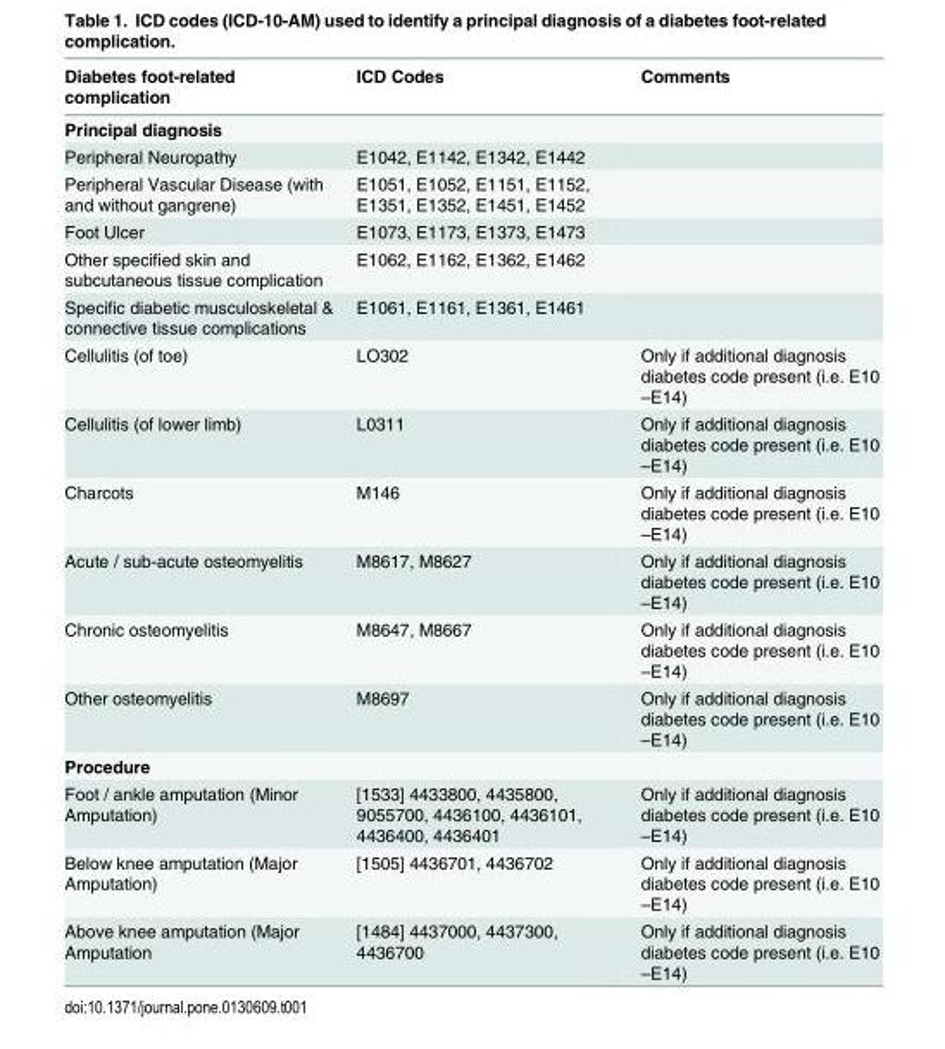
<table><thead><tr><td>Diabetes foot-related complication</td><td>ICD Codes</td><td>Comments</td></tr></thead><tbody><tr><td colspan="3">Principal diagnosis</td></tr><tr><td>Peripheral Neuropathy</td><td>E1042, E1142, E1342, E1442</td><td></td></tr><tr><td>Peripheral Vascular Disease (with and without gangrene)</td><td>E1051, E1052, E1151, E1152, E1351, E1352, E1451, E1452</td><td></td></tr><tr><td>Foot Ulcer</td><td>E1073, E1173, E1373, E1473</td><td></td></tr><tr><td>Other specified skin and subcutaneous tissue complication</td><td>E1062, E1162, E1362, E1462</td><td></td></tr><tr><td>Specific diabetic musculoskeletal &amp; connective tissue complications</td><td>E1061, E1161, E1361, E1461</td><td></td></tr><tr><td>Cellulitis (of toe)</td><td>LO302</td><td>Only if additional diagnosis diabetes code present (i.e. E10 –E14)</td></tr><tr><td>Cellulitis (of lower limb)</td><td>L0311</td><td>Only if additional diagnosis diabetes code present (i.e. E10 –E14)</td></tr><tr><td>Charcots</td><td>M146</td><td>Only if additional diagnosis diabetes code present (i.e. E10 –E14)</td></tr><tr><td>Acute / sub-acute osteomyelitis</td><td>M8617, M8627</td><td>Only if additional diagnosis diabetes code present (i.e. E10 –E14)</td></tr><tr><td>Chronic osteomyelitis</td><td>M8647, M8667</td><td>Only if additional diagnosis diabetes code present (i.e. E10 –E14)</td></tr><tr><td>Other osteomyelitis</td><td>M8697</td><td>Only if additional diagnosis diabetes code present (i.e. E10 –E14)</td></tr><tr><td colspan="3">Procedure</td></tr><tr><td>Foot / ankle amputation (Minor Amputation)</td><td>[1533] 4433800, 4435800, 9055700, 4436100, 4436101, 4436400, 4436401</td><td>Only if additional diagnosis diabetes code present (i.e. E10 –E14)</td></tr><tr><td>Below knee amputation (Major Amputation)</td><td>[1505] 4436701, 4436702</td><td>Only if additional diagnosis diabetes code present (i.e. E10 –E14)</td></tr><tr><td>Above knee amputation (Major Amputation</td><td>[1484] 4437000, 4437300, 4436700</td><td>Only if additional diagnosis diabetes code present (i.e. E10 –E14)</td></tr></tbody></table>